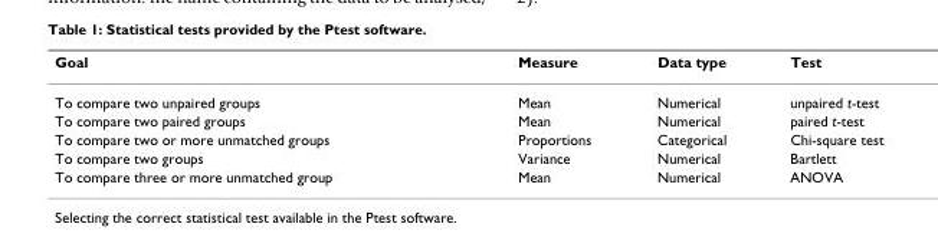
<table><thead><tr><td>Goal</td><td>Measure</td><td>Data type</td><td>Test</td></tr></thead><tbody><tr><td>To compare two unpaired groups</td><td>Mean</td><td>Numerical</td><td>unpaired t-test</td></tr><tr><td>To compare two paired groups</td><td>Mean</td><td>Numerical</td><td>paired t-test</td></tr><tr><td>To compare two or more unmatched groups</td><td>Proportions</td><td>Categorical</td><td>Chi-square test</td></tr><tr><td>To compare two groups</td><td>Variance</td><td>Numerical</td><td>Bartlett</td></tr><tr><td>To compare three or more unmatched group</td><td>Mean</td><td>Numerical</td><td>ANOVA</td></tr></tbody></table>